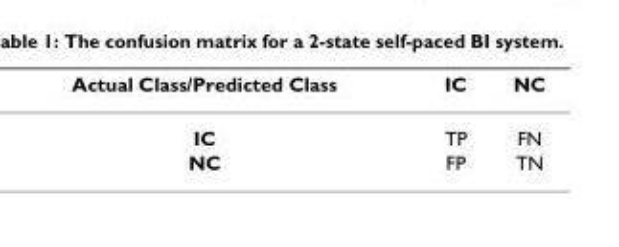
<table><thead><tr><td>Actual Class/Predicted Class</td><td>IC</td><td>NC</td></tr></thead><tbody><tr><td>IC</td><td>TP</td><td>FN</td></tr><tr><td>NC</td><td>FP</td><td>TN</td></tr></tbody></table>